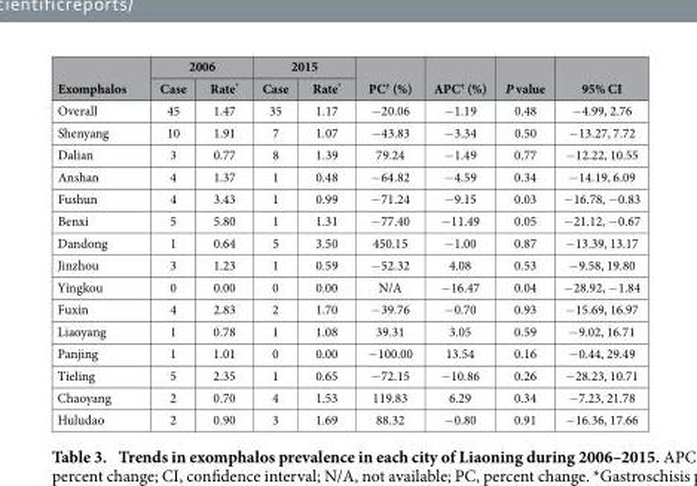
<table><thead><tr><td rowspan="2">Exomphalos</td><td colspan="2">2006</td><td colspan="2">2015</td><td rowspan="2">PC† (%)</td><td rowspan="2">APC† (%)</td><td rowspan="2">P value</td><td rowspan="2">95% CI</td></tr><tr><td>Case</td><td>Rate*</td><td>Case</td><td>Rate*</td></tr></thead><tbody><tr><td>Overall</td><td>45</td><td>1.47</td><td>35</td><td>1.17</td><td>− 20.06</td><td>− 1.19</td><td>0.48</td><td>− 4.99, 2.76</td></tr><tr><td>Shenyang</td><td>10</td><td>1.91</td><td>7</td><td>1.07</td><td>− 43.83</td><td>− 3.34</td><td>0.50</td><td>− 13.27, 7.72</td></tr><tr><td>Dalian</td><td>3</td><td>0.77</td><td>8</td><td>1.39</td><td>79.24</td><td>− 1.49</td><td>0.77</td><td>− 12.22, 10.55</td></tr><tr><td>Anshan</td><td>4</td><td>1.37</td><td>1</td><td>0.48</td><td>− 64.82</td><td>− 4.59</td><td>0.34</td><td>− 14.19, 6.09</td></tr><tr><td>Fushun</td><td>4</td><td>3.43</td><td>1</td><td>0.99</td><td>− 71.24</td><td>− 9.15</td><td>0.03</td><td>− 16.78, − 0.83</td></tr><tr><td>Benxi</td><td>5</td><td>5.80</td><td>1</td><td>1.31</td><td>− 77.40</td><td>− 11.49</td><td>0.05</td><td>− 21.12, − 0.67</td></tr><tr><td>Dandong</td><td>1</td><td>0.64</td><td>5</td><td>3.50</td><td>450.15</td><td>− 1.00</td><td>0.87</td><td>− 13.39, 13.17</td></tr><tr><td>Jinzhou</td><td>3</td><td>1.23</td><td>1</td><td>0.59</td><td>− 52.32</td><td>4.08</td><td>0.53</td><td>− 9.58, 19.80</td></tr><tr><td>Yingkou</td><td>0</td><td>0.00</td><td>0</td><td>0.00</td><td>N/A</td><td>− 16.47</td><td>0.04</td><td>− 28.92, − 1.84</td></tr><tr><td>Fuxin</td><td>4</td><td>2.83</td><td>2</td><td>1.70</td><td>− 39.76</td><td>− 0.70</td><td>0.93</td><td>− 15.69, 16.97</td></tr><tr><td>Liaoyang</td><td>1</td><td>0.78</td><td>1</td><td>1.08</td><td>39.31</td><td>3.05</td><td>0.59</td><td>− 9.02, 16.71</td></tr><tr><td>Panjing</td><td>1</td><td>1.01</td><td>0</td><td>0.00</td><td>− 100.00</td><td>13.54</td><td>0.16</td><td>− 0.44, 29.49</td></tr><tr><td>Tieling</td><td>5</td><td>2.35</td><td>1</td><td>0.65</td><td>− 72.15</td><td>− 10.86</td><td>0.26</td><td>− 28.23, 10.71</td></tr><tr><td>Chaoyang</td><td>2</td><td>0.70</td><td>4</td><td>1.53</td><td>119.83</td><td>6.29</td><td>0.34</td><td>− 7.23, 21.78</td></tr><tr><td>Huludao</td><td>2</td><td>0.90</td><td>3</td><td>1.69</td><td>88.32</td><td>− 0.80</td><td>0.91</td><td>− 16.36, 17.66</td></tr></tbody></table>